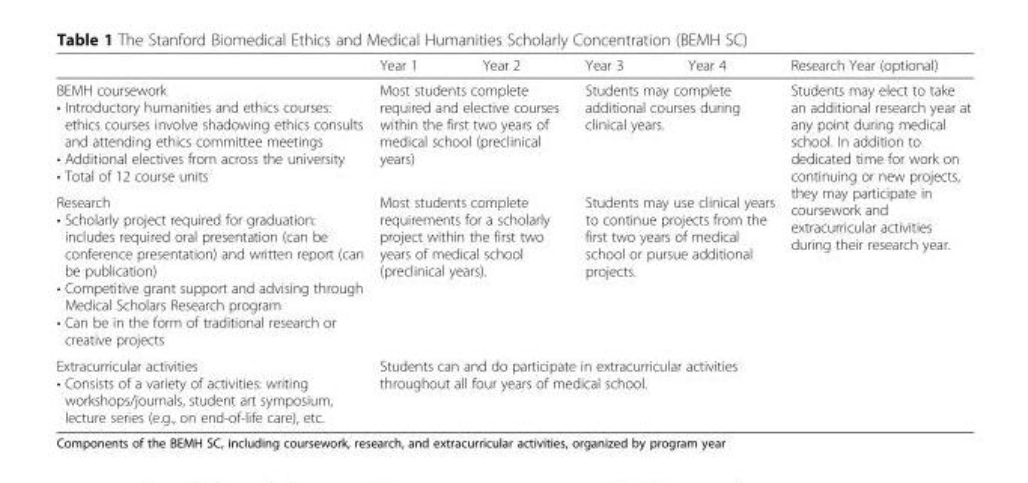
<table><thead><tr><td></td><td>Year 1</td><td>Year 2</td><td>Year 3</td><td>Year 4</td><td>Research Year (optional)</td></tr></thead><tbody><tr><td>BEMH coursework • Introductory humanities and ethics courses: ethics courses involve shadowing ethics consults and attending ethics committee meetings • Additional electives from across the university • Total of 12 course units</td><td colspan="2">Most students complete required and elective courses within the first two years of medical school (preclinical years)</td><td colspan="2">Students may complete additional courses during clinical years.</td><td rowspan="3">Students may elect to take an additional research year at any point during medical school. In addition to dedicated time for work on continuing or new projects, they may participate in coursework and extracurricular activities during their research year.</td></tr><tr><td>Research • Scholarly project required for graduation: includes required oral presentation (can be conference presentation) and written report (can be publication) • Competitive grant support and advising through Medical Scholars Research program • Can be in the form of traditional research or creative projects</td><td colspan="2">Most students complete requirements for a scholarly project within the first two years of medical school (preclinical years).</td><td colspan="2">Students may use clinical years to continue projects from the first two years of medical school or pursue additional projects.</td></tr><tr><td>Extracurricular activities • Consists of a variety of activities: writing workshops/journals, student art symposium, lecture series (e.g., on end-of-life care), etc.</td><td colspan="4">Students can and do participate in extracurricular activities throughout all four years of medical school.</td></tr></tbody></table>